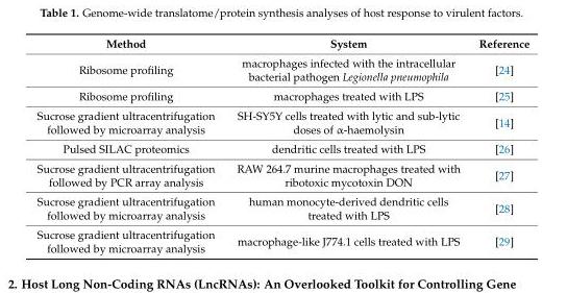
<table><thead><tr><td>Method</td><td>System</td><td>Reference</td></tr></thead><tbody><tr><td>Ribosome profiling</td><td>macrophages infected with the intracellular bacterial pathogen Legionella pneumophila</td><td>[24]</td></tr><tr><td>Ribosome profiling</td><td>macrophages treated with LPS</td><td>[25]</td></tr><tr><td>Sucrose gradient ultracentrifugation followed by microarray analysis</td><td>SH-SY5Y cells treated with lytic and sub-lytic doses of α-haemolysin</td><td>[14]</td></tr><tr><td>Pulsed SILAC proteomics</td><td>dendritic cells treated with LPS</td><td>[26]</td></tr><tr><td>Sucrose gradient ultracentrifugation followed by PCR array analysis</td><td>RAW 264.7 murine macrophages treated with ribotoxic mycotoxin DON</td><td>[27]</td></tr><tr><td>Sucrose gradient ultracentrifugation followed by microarray analysis</td><td>human monocyte-derived dendritic cells treated with LPS</td><td>[28]</td></tr><tr><td>Sucrose gradient ultracentrifugation followed by microarray analysis</td><td>macrophage-like J774.1 cells treated with LPS</td><td>[29]</td></tr></tbody></table>